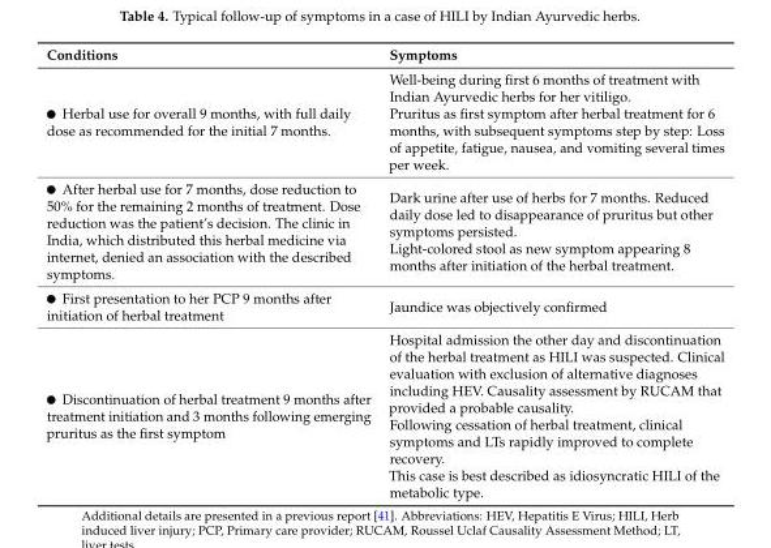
<table><thead><tr><td>Conditions</td><td>Symptoms</td></tr></thead><tbody><tr><td>Herbal use for overall 9 months, with full daily dose as recommended for the initial 7 months.</td><td>Well-being during first 6 months of treatment with Indian Ayurvedic herbs for her vitiligo. Pruritus as first symptom after herbal treatment for 6 months, with subsequent symptoms step by step: Loss of appetite, fatigue, nausea, and vomiting several times per week.</td></tr><tr><td>After herbal use for 7 months, dose reduction to 50% for the remaining 2 months of treatment. Dose reduction was the patient’s decision. The clinic in India, which distributed this herbal medicine via internet, denied an association with the described symptoms.</td><td>Dark urine after use of herbs for 7 months. Reduced daily dose led to disappearance of pruritus but other symptoms persisted. Light-colored stool as new symptom appearing 8 months after initiation of the herbal treatment.</td></tr><tr><td>First presentation to her PCP 9 months after initiation of herbal treatment</td><td>Jaundice was objectively confirmed</td></tr><tr><td>Discontinuation of herbal treatment 9 months after treatment initiation and 3 months following emerging pruritus as the first symptom</td><td>Hospital admission the other day and discontinuation of the herbal treatment as HILI was suspected. Clinical evaluation with exclusion of alternative diagnoses including HEV. Causality assessment by RUCAM that provided a probable causality. Following cessation of herbal treatment, clinical symptoms and LTs rapidly improved to complete recovery. This case is best described as idiosyncratic HILI of the metabolic type.</td></tr></tbody></table>